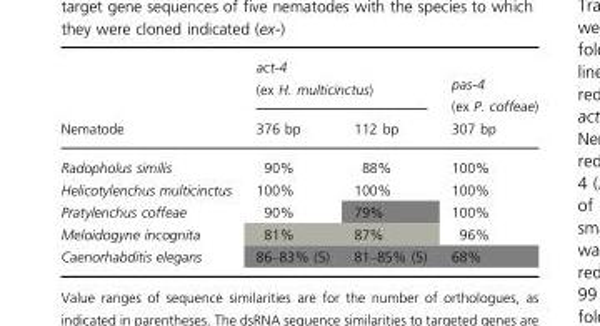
<table><thead><tr><td rowspan="2">Nematode</td><td colspan="2">act-4 (ex H. multicinctus)</td><td rowspan="2">pas-4 (ex P. coffeae) 307 bp</td></tr><tr><td>376 bp</td><td>112 bp</td></tr></thead><tbody><tr><td>Radopholus similis</td><td>90%</td><td>88%</td><td>100%</td></tr><tr><td>Helicotylenchus multicinctus</td><td>100%</td><td>100%</td><td>100%</td></tr><tr><td>Pratylenchus coffeae</td><td>90%</td><td>79%</td><td>100%</td></tr><tr><td>Meloidogyne incognita</td><td>81%</td><td>87%</td><td>96%</td></tr><tr><td>Caenorhabditis elegans</td><td>86–83% (5)</td><td>81–85% (5)</td><td>68%</td></tr></tbody></table>